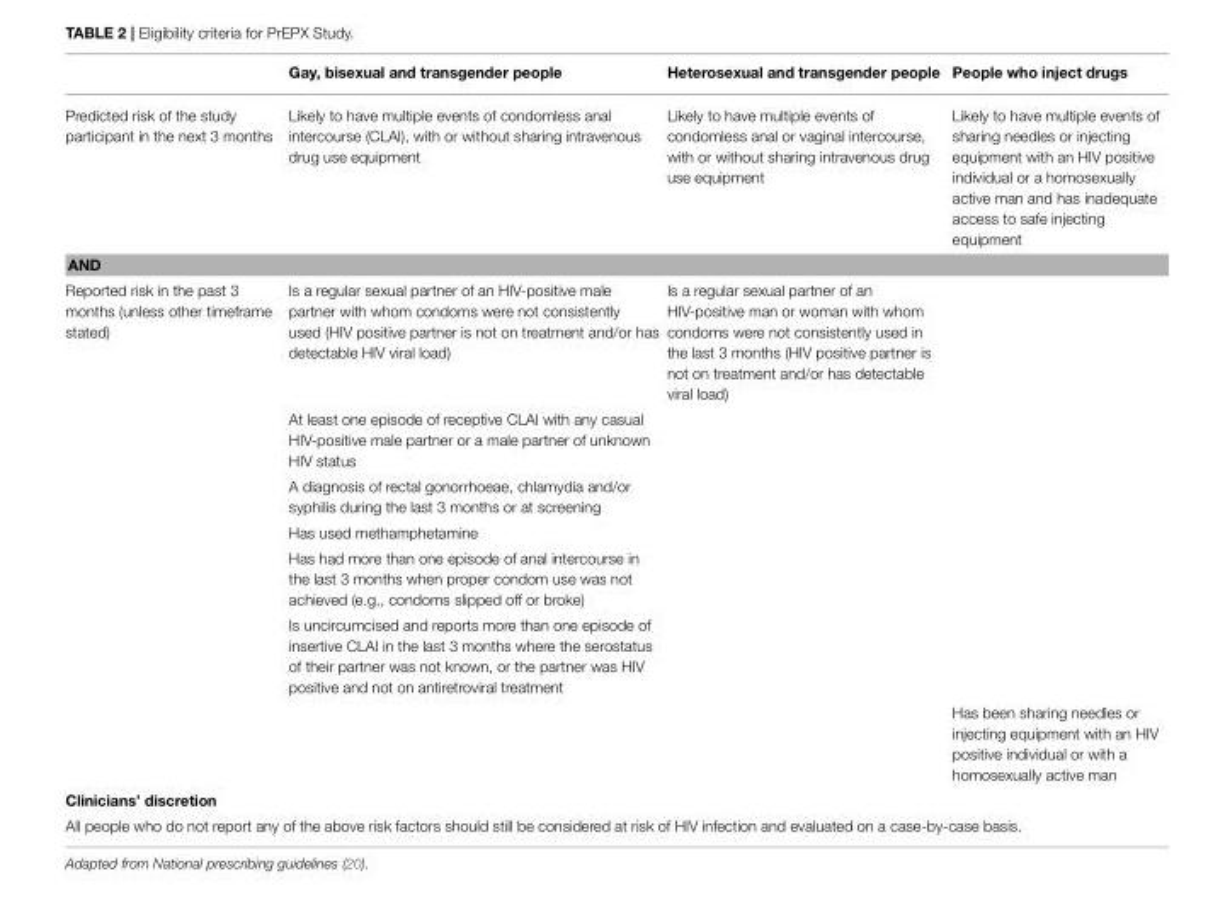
<table><thead><tr><td></td><td>Gay, bisexual and transgender people</td><td>Heterosexual and transgender people</td><td>People who inject drugs</td></tr></thead><tbody><tr><td>Predicted risk of the study participant in the next 3 months</td><td>Likely to have multiple events of condomless anal intercourse (CLAI), with or without sharing intravenous drug use equipment</td><td>Likely to have multiple events of condomless anal or vaginal intercourse, with or without sharing intravenous drug use equipment</td><td>Likely to have multiple events of sharing needles or injecting equipment with an HIV positive individual or a homosexually active man and has inadequate access to safe injecting equipment</td></tr><tr><td colspan="4">AND</td></tr><tr><td rowspan="7">Reported risk in the past 3 months (unless other timeframe stated)</td><td>Is a regular sexual partner of an HIV-positive male partner with whom condoms were not consistently used (HIV positive partner is not on treatment and/or has detectable HIV viral load)</td><td>Is a regular sexual partner of an HIV-positive man or woman with whom condoms were not consistently used in the last 3 months (HIV positive partner is not on treatment and/or has detectable viral load)</td><td></td></tr><tr><td>At least one episode of receptive CLAI with any casual HIV-positive male partner or a male partner of unknown HIV status</td><td></td><td></td></tr><tr><td>A diagnosis of rectal gonorrhoeae, chlamydia and/or syphilis during the last 3 months or at screening</td><td></td><td></td></tr><tr><td>Has used methamphetamine</td><td></td><td></td></tr><tr><td>Has had more than one episode of anal intercourse in the last 3 months when proper condom use was not achieved (e.g., condoms slipped off or broke)</td><td></td><td></td></tr><tr><td>Is uncircumcised and reports more than one episode of insertive CLAI in the last 3 months where the serostatus of their partner was not known, or the partner was HIV positive and not on antiretroviral treatment</td><td></td><td></td></tr><tr><td></td><td></td><td>Has been sharing needles or injecting equipment with an HIV positive individual or with a homosexually active man</td></tr><tr><td colspan="4">Clinicians’ discretion</td></tr><tr><td colspan="4">All people who do not report any of the above risk factors should still be considered at risk of HIV infection and evaluated on a case-by-case basis.</td></tr></tbody></table>